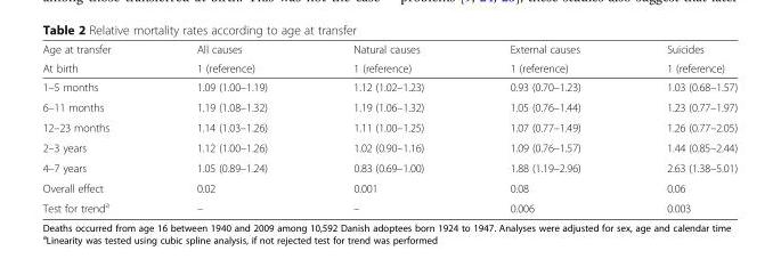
<table><thead><tr><td rowspan="2">Age at transfer At birth</td><td rowspan="2">All causes 1 (reference)</td><td rowspan="2">Natural causes 1 (reference)</td><td rowspan="2">External causes 1 (reference)</td><td rowspan="2">Suicides 1 (reference)</td></tr><tr></tr></thead><tbody><tr><td>1–5 months</td><td>1.09 (1.00–1.19)</td><td>1.12 (1.02–1.23)</td><td>0.93 (0.70–1.23)</td><td>1.03 (0.68–1.57)</td></tr><tr><td>6–11 months</td><td>1.19 (1.08–1.32)</td><td>1.19 (1.06–1.32)</td><td>1.05 (0.76–1.44)</td><td>1.23 (0.77–1.97)</td></tr><tr><td>12–23 months</td><td>1.14 (1.03–1.26)</td><td>1.11 (1.00–1.25)</td><td>1.07 (0.77–1.49)</td><td>1.26 (0.77–2.05)</td></tr><tr><td>2–3 years</td><td>1.12 (1.00–1.26)</td><td>1.02 (0.90–1.16)</td><td>1.09 (0.76–1.57)</td><td>1.44 (0.85–2.44)</td></tr><tr><td>4–7 years</td><td>1.05 (0.89–1.24)</td><td>0.83 (0.69–1.00)</td><td>1.88 (1.19–2.96)</td><td>2.63 (1.38–5.01)</td></tr><tr><td>Overall effect</td><td>0.02</td><td>0.001</td><td>0.08</td><td>0.06</td></tr><tr><td>Test for trend<sup>a</sup></td><td>–</td><td>–</td><td>0.006</td><td>0.003</td></tr></tbody></table>